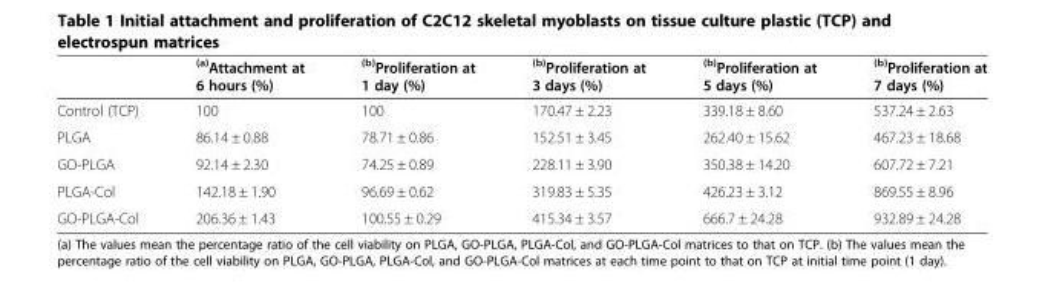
<table><thead><tr><td></td><td><sup>(a)</sup>Attachment at 6 hours (%)</td><td><sup>(b)</sup>Proliferation at 1 day (%)</td><td><sup>(b)</sup>Proliferation at 3 days (%)</td><td><sup>(b)</sup>Proliferation at 5 days (%)</td><td><sup>(b)</sup>Proliferation at 7 days (%)</td></tr></thead><tbody><tr><td>Control (TCP)</td><td>100</td><td>100</td><td>170.47 ± 2.23</td><td>339.18 ± 8.60</td><td>537.24 ± 2.63</td></tr><tr><td>PLGA</td><td>86.14 ± 0.88</td><td>78.71 ± 0.86</td><td>152.51 ± 3.45</td><td>262.40 ± 15.62</td><td>467.23 ± 18.68</td></tr><tr><td>GO-PLGA</td><td>92.14 ± 2.30</td><td>74.25 ± 0.89</td><td>228.11 ± 3.90</td><td>350.38 ± 14.20</td><td>607.72 ± 7.21</td></tr><tr><td>PLGA-Col</td><td>142.18 ± 1.90</td><td>96.69 ± 0.62</td><td>319.83 ± 5.35</td><td>426.23 ± 3.12</td><td>869.55 ± 8.96</td></tr><tr><td>GO-PLGA-Col</td><td>206.36 ± 1.43</td><td>100.55 ± 0.29</td><td>415.34 ± 3.57</td><td>666.7 ± 24.28</td><td>932.89 ± 24.28</td></tr></tbody></table>